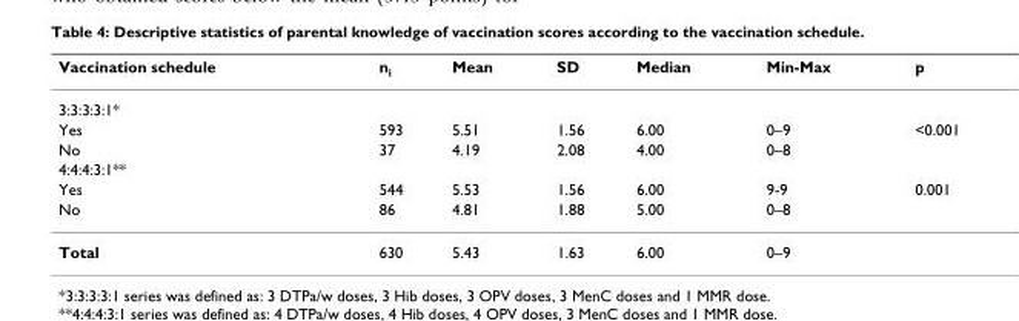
<table><thead><tr><td>Vaccination schedule</td><td>n<sub>i</sub></td><td>Mean</td><td>SD</td><td>Median</td><td>Min-Max</td><td>p</td></tr></thead><tbody><tr><td colspan="7">3:3:3:3:1*</td></tr><tr><td>Yes</td><td>593</td><td>5.51</td><td>1.56</td><td>6.00</td><td>0–9</td><td>&lt;0.001</td></tr><tr><td>No</td><td>37</td><td>4.19</td><td>2.08</td><td>4.00</td><td>0–8</td><td></td></tr><tr><td colspan="7">4:4:4:3:1**</td></tr><tr><td>Yes</td><td>544</td><td>5.53</td><td>1.56</td><td>6.00</td><td>9-9</td><td>0.001</td></tr><tr><td>No</td><td>86</td><td>4.81</td><td>1.88</td><td>5.00</td><td>0–8</td><td></td></tr><tr><td>Total</td><td>630</td><td>5.43</td><td>1.63</td><td>6.00</td><td>0–9</td><td></td></tr></tbody></table>